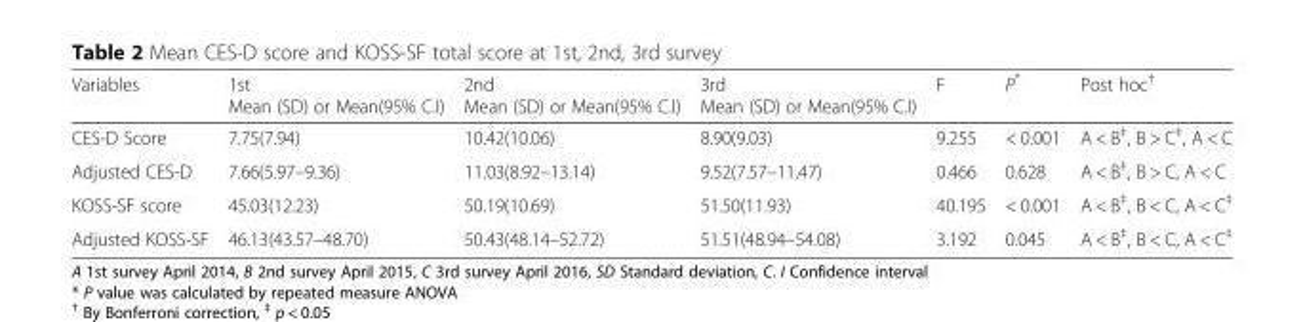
<table><thead><tr><td>Variables</td><td>1st Mean (SD) or Mean(95% C.I)</td><td>2nd Mean (SD) or Mean(95% C.I)</td><td>3rd Mean (SD) or Mean(95% C.I)</td><td>F</td><td>P*</td><td>Post hoc<sup>†</sup></td></tr></thead><tbody><tr><td>CES-D Score</td><td>7.75(7.94)</td><td>10.42(10.06)</td><td>8.90(9.03)</td><td>9.255</td><td>&lt; 0.001</td><td>A &lt; B<sup>‡</sup>, B &gt; C<sup>‡</sup>, A &lt; C</td></tr><tr><td>Adjusted CES-D</td><td>7.66(5.97–9.36)</td><td>11.03(8.92–13.14)</td><td>9.52(7.57–11.47)</td><td>0.466</td><td>0.628</td><td>A &lt; B<sup>‡</sup>, B &gt; C, A &lt; C</td></tr><tr><td>KOSS-SF score</td><td>45.03(12.23)</td><td>50.19(10.69)</td><td>51.50(11.93)</td><td>40.195</td><td>&lt; 0.001</td><td>A &lt; B<sup>‡</sup>, B &lt; C, A &lt; C<sup>‡</sup></td></tr><tr><td>Adjusted KOSS-SF</td><td>46.13(43.57–48.70)</td><td>50.43(48.14–52.72)</td><td>51.51(48.94–54.08)</td><td>3.192</td><td>0.045</td><td>A &lt; B<sup>‡</sup>, B &lt; C, A &lt; C<sup>‡</sup></td></tr></tbody></table>